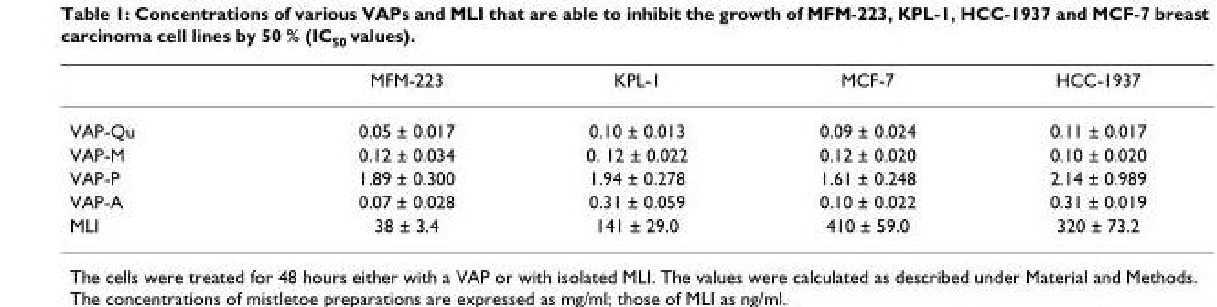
<table><thead><tr><td></td><td>MFM-223</td><td>KPL-1</td><td>MCF-7</td><td>HCC-1937</td></tr></thead><tbody><tr><td>VAP-Qu</td><td>0.05 ± 0.017</td><td>0.10 ± 0.013</td><td>0.09 ± 0.024</td><td>0.11 ± 0.017</td></tr><tr><td>VAP-M</td><td>0.12 ± 0.034</td><td>0. 12 ± 0.022</td><td>0.12 ± 0.020</td><td>0.10 ± 0.020</td></tr><tr><td>VAP-P</td><td>1.89 ± 0.300</td><td>1.94 ± 0.278</td><td>1.61 ± 0.248</td><td>2.14 ± 0.989</td></tr><tr><td>VAP-A</td><td>0.07 ± 0.028</td><td>0.31 ± 0.059</td><td>0.10 ± 0.022</td><td>0.31 ± 0.019</td></tr><tr><td>MLI</td><td>38 ± 3.4</td><td>141 ± 29.0</td><td>410 ± 59.0</td><td>320 ± 73.2</td></tr></tbody></table>